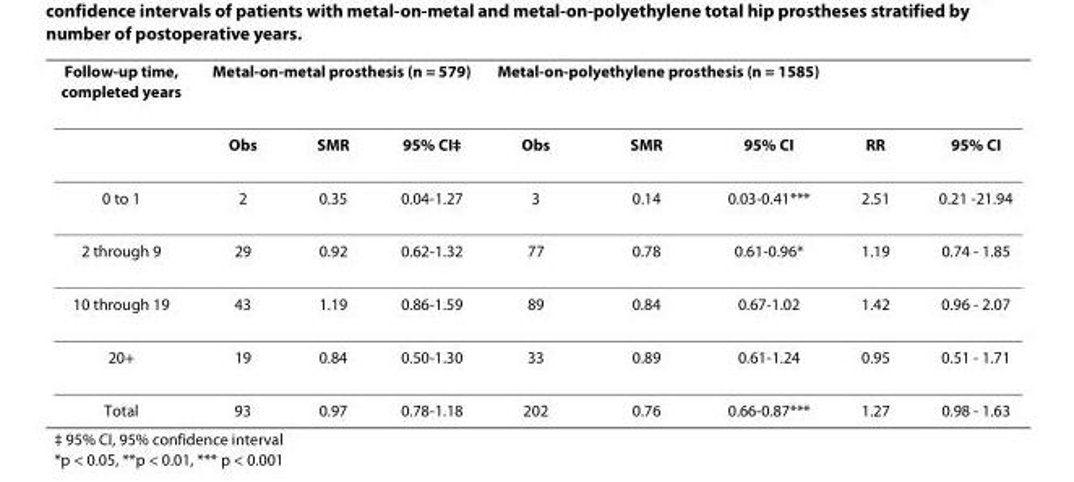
<table><thead><tr><td rowspan="2">Follow-up time, completed years</td><td colspan="3">Metal-on-metal prosthesis (n = 579)</td><td colspan="3">Metal-on-polyethylene prosthesis (n = 1585)</td><td rowspan="2">RR</td><td rowspan="2">95% CI</td></tr><tr><td>Obs</td><td>SMR</td><td>95% CI‡</td><td>Obs</td><td>SMR</td><td>95% CI</td></tr></thead><tbody><tr><td>0 to 1</td><td>2</td><td>0.35</td><td>0.04-1.27</td><td>3</td><td>0.14</td><td>0.03-0.41***</td><td>2.51</td><td>0.21 -21.94</td></tr><tr><td>2 through 9</td><td>29</td><td>0.92</td><td>0.62-1.32</td><td>77</td><td>0.78</td><td>0.61-0.96*</td><td>1.19</td><td>0.74 - 1.85</td></tr><tr><td>10 through 19</td><td>43</td><td>1.19</td><td>0.86-1.59</td><td>89</td><td>0.84</td><td>0.67-1.02</td><td>1.42</td><td>0.96 - 2.07</td></tr><tr><td>20+</td><td>19</td><td>0.84</td><td>0.50-1.30</td><td>33</td><td>0.89</td><td>0.61-1.24</td><td>0.95</td><td>0.51 - 1.71</td></tr><tr><td>Total</td><td>93</td><td>0.97</td><td>0.78-1.18</td><td>202</td><td>0.76</td><td>0.66-0.87***</td><td>1.27</td><td>0.98 - 1.63</td></tr></tbody></table>